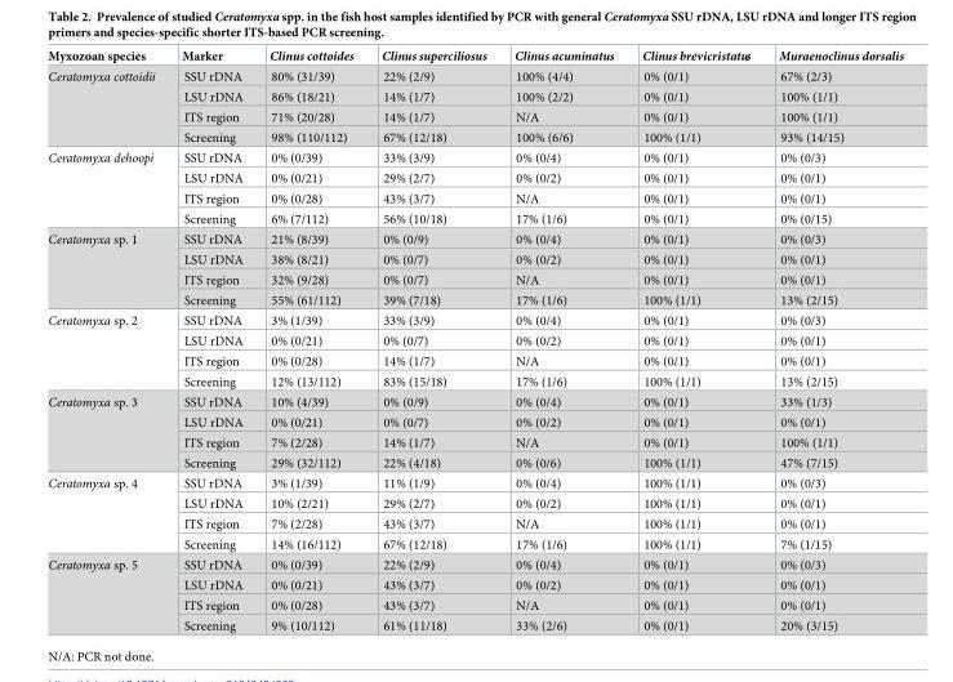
<table><thead><tr><td>Myxozoan species</td><td>Marker</td><td>Clinus cottoides</td><td>Clinus superciliosus</td><td>Clinus acuminatus</td><td>Clinus brevicristatus</td><td>Muraenoclinus dorsalis</td></tr></thead><tbody><tr><td rowspan="4">Ceratomyxa cottoidii</td><td>SSU rDNA</td><td>80% (31/39)</td><td>22% (2/9)</td><td>100% (4/4)</td><td>0% (0/1)</td><td>67% (2/3)</td></tr><tr><td>LSU rDNA</td><td>86% (18/21)</td><td>14% (1/7)</td><td>100% (2/2)</td><td>0% (0/1)</td><td>100% (1/1)</td></tr><tr><td>ITS region</td><td>71% (20/28)</td><td>14% (1/7)</td><td>N/A</td><td>0% (0/1)</td><td>100% (1/1)</td></tr><tr><td>Screening</td><td>98% (110/112)</td><td>67% (12/18)</td><td>100% (6/6)</td><td>100% (1/1)</td><td>93% (14/15)</td></tr><tr><td rowspan="4">Ceratomyxa dehoopi</td><td>SSU rDNA</td><td>0% (0/39)</td><td>33% (3/9)</td><td>0% (0/4)</td><td>0% (0/1)</td><td>0% (0/3)</td></tr><tr><td>LSU rDNA</td><td>0% (0/21)</td><td>29% (2/7)</td><td>0% (0/2)</td><td>0% (0/1)</td><td>0% (0/1)</td></tr><tr><td>ITS region</td><td>0% (0/28)</td><td>43% (3/7)</td><td>N/A</td><td>0% (0/1)</td><td>0% (0/1)</td></tr><tr><td>Screening</td><td>6% (7/112)</td><td>56% (10/18)</td><td>17% (1/6)</td><td>0% (0/1)</td><td>0% (0/15)</td></tr><tr><td rowspan="4">Ceratomyxa sp. 1</td><td>SSU rDNA</td><td>21% (8/39)</td><td>0% (0/9)</td><td>0% (0/4)</td><td>0% (0/1)</td><td>0% (0/3)</td></tr><tr><td>LSU rDNA</td><td>38% (8/21)</td><td>0% (0/7)</td><td>0% (0/2)</td><td>0% (0/1)</td><td>0% (0/1)</td></tr><tr><td>ITS region</td><td>32% (9/28)</td><td>0% (0/7)</td><td>N/A</td><td>0% (0/1)</td><td>0% (0/1)</td></tr><tr><td>Screening</td><td>55% (61/112)</td><td>39% (7/18)</td><td>17% (1/6)</td><td>100% (1/1)</td><td>13% (2/15)</td></tr><tr><td rowspan="4">Ceratomyxa sp. 2</td><td>SSU rDNA</td><td>3% (1/39)</td><td>33% (3/9)</td><td>0% (0/4)</td><td>0% (0/1)</td><td>0% (0/3)</td></tr><tr><td>LSU rDNA</td><td>0% (0/21)</td><td>0% (0/7)</td><td>0% (0/2)</td><td>0% (0/1)</td><td>0% (0/1)</td></tr><tr><td>ITS region</td><td>0% (0/28)</td><td>14% (1/7)</td><td>N/A</td><td>0% (0/1)</td><td>0% (0/1)</td></tr><tr><td>Screening</td><td>12% (13/112)</td><td>83% (15/18)</td><td>17% (1/6)</td><td>100% (1/1)</td><td>13% (2/15)</td></tr><tr><td rowspan="4">Ceratomyxa sp. 3</td><td>SSU rDNA</td><td>10% (4/39)</td><td>0% (0/9)</td><td>0% (0/4)</td><td>0% (0/1)</td><td>33% (1/3)</td></tr><tr><td>LSU rDNA</td><td>0% (0/21)</td><td>0% (0/7)</td><td>0% (0/2)</td><td>0% (0/1)</td><td>0% (0/1)</td></tr><tr><td>ITS region</td><td>7% (2/28)</td><td>14% (1/7)</td><td>N/A</td><td>0% (0/1)</td><td>100% (1/1)</td></tr><tr><td>Screening</td><td>29% (32/112)</td><td>22% (4/18)</td><td>0% (0/6)</td><td>100% (1/1)</td><td>47% (7/15)</td></tr><tr><td rowspan="4">Ceratomyxa sp. 4</td><td>SSU rDNA</td><td>3% (1/39)</td><td>11% (1/9)</td><td>0% (0/4)</td><td>100% (1/1)</td><td>0% (0/3)</td></tr><tr><td>LSU rDNA</td><td>10% (2/21)</td><td>29% (2/7)</td><td>0% (0/2)</td><td>100% (1/1)</td><td>0% (0/1)</td></tr><tr><td>ITS region</td><td>7% (2/28)</td><td>43% (3/7)</td><td>N/A</td><td>100% (1/1)</td><td>0% (0/1)</td></tr><tr><td>Screening</td><td>14% (16/112)</td><td>67% (12/18)</td><td>17% (1/6)</td><td>100% (1/1)</td><td>7% (1/15)</td></tr><tr><td rowspan="4">Ceratomyxa sp. 5</td><td>SSU rDNA</td><td>0% (0/39)</td><td>22% (2/9)</td><td>0% (0/4)</td><td>0% (0/1)</td><td>0% (0/3)</td></tr><tr><td>LSU rDNA</td><td>0% (0/21)</td><td>43% (3/7)</td><td>0% (0/2)</td><td>0% (0/1)</td><td>0% (0/1)</td></tr><tr><td>ITS region</td><td>0% (0/28)</td><td>43% (3/7)</td><td>N/A</td><td>0% (0/1)</td><td>0% (0/1)</td></tr><tr><td>Screening</td><td>9% (10/112)</td><td>61% (11/18)</td><td>33% (2/6)</td><td>0% (0/1)</td><td>20% (3/15)</td></tr></tbody></table>